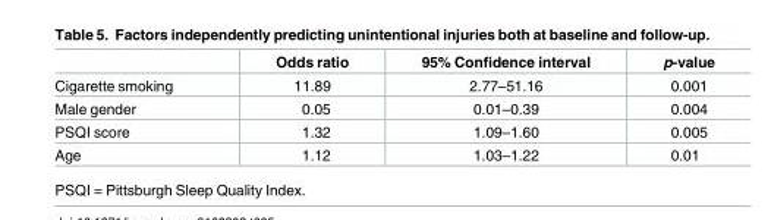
<table><thead><tr><td></td><td>Odds ratio</td><td>95% Confidence interval</td><td>p-value</td></tr></thead><tbody><tr><td>Cigarette smoking</td><td>11.89</td><td>2.77–51.16</td><td>0.001</td></tr><tr><td>Male gender</td><td>0.05</td><td>0.01–0.39</td><td>0.004</td></tr><tr><td>PSQI score</td><td>1.32</td><td>1.09–1.60</td><td>0.005</td></tr><tr><td>Age</td><td>1.12</td><td>1.03–1.22</td><td>0.01</td></tr></tbody></table>